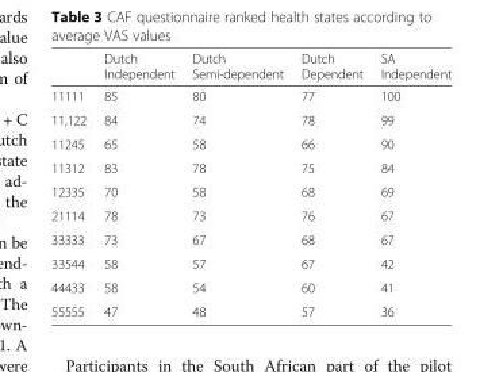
<table><thead><tr><td></td><td>Dutch Independent</td><td>Dutch Semi-dependent</td><td>Dutch Dependent</td><td>SA Independent</td></tr></thead><tbody><tr><td>11111</td><td>85</td><td>80</td><td>77</td><td>100</td></tr><tr><td>11,122</td><td>84</td><td>74</td><td>78</td><td>99</td></tr><tr><td>11245</td><td>65</td><td>58</td><td>66</td><td>90</td></tr><tr><td>11312</td><td>83</td><td>78</td><td>75</td><td>84</td></tr><tr><td>12335</td><td>70</td><td>58</td><td>68</td><td>69</td></tr><tr><td>21114</td><td>78</td><td>73</td><td>76</td><td>67</td></tr><tr><td>33333</td><td>73</td><td>67</td><td>68</td><td>67</td></tr><tr><td>33544</td><td>58</td><td>57</td><td>67</td><td>42</td></tr><tr><td>44433</td><td>58</td><td>54</td><td>60</td><td>41</td></tr><tr><td>55555</td><td>47</td><td>48</td><td>57</td><td>36</td></tr></tbody></table>